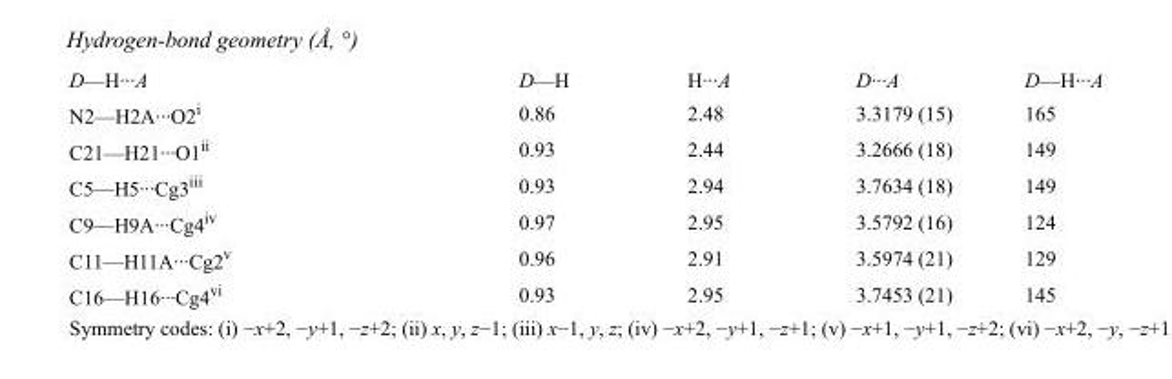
<table><tbody><tr><td>D—H···A</td><td>D—H</td><td>H···A</td><td>D···A</td><td>D—H···A</td></tr><tr><td>N2—H2A···O2<sup>i</sup></td><td>0.86</td><td>2.48</td><td>3.3179 (15)</td><td>165</td></tr><tr><td>C21—H21···O1<sup>ii</sup></td><td>0.93</td><td>2.44</td><td>3.2666 (18)</td><td>149</td></tr><tr><td>C5—H5···Cg3<sup>iii</sup></td><td>0.93</td><td>2.94</td><td>3.7634 (18)</td><td>149</td></tr><tr><td>C9—H9A···Cg4<sup>iv</sup></td><td>0.97</td><td>2.95</td><td>3.5792 (16)</td><td>124</td></tr><tr><td>C11—H11A···Cg2<sup>v</sup></td><td>0.96</td><td>2.91</td><td>3.5974 (21)</td><td>129</td></tr><tr><td>C16—H16···Cg4<sup>vi</sup></td><td>0.93</td><td>2.95</td><td>3.7453 (21)</td><td>145</td></tr></tbody></table>